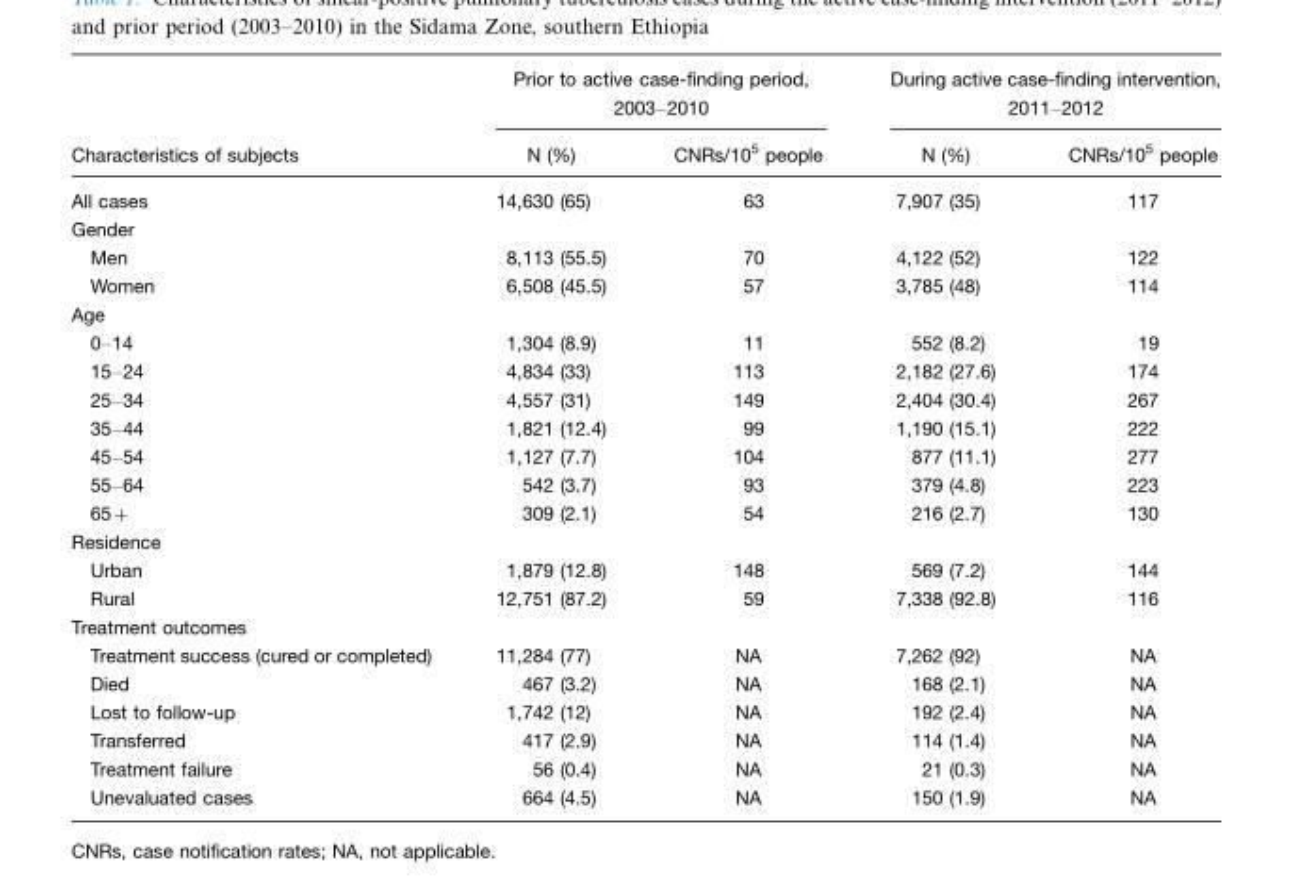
<table><thead><tr><td rowspan="2">Characteristics of subjects</td><td colspan="2">Prior to active case-finding period, 2003–2010</td><td colspan="2">During active case-finding intervention, 2011–2012</td></tr><tr><td>N (%)</td><td>CNRs/10<sup>5</sup> people</td><td>N (%)</td><td>CNRs/10<sup>5</sup> people</td></tr></thead><tbody><tr><td>All cases</td><td>14,630 (65)</td><td>63</td><td>7,907 (35)</td><td>117</td></tr><tr><td colspan="5">Gender</td></tr><tr><td>Men</td><td>8,113 (55.5)</td><td>70</td><td>4,122 (52)</td><td>122</td></tr><tr><td>Women</td><td>6,508 (45.5)</td><td>57</td><td>3,785 (48)</td><td>114</td></tr><tr><td colspan="5">Age</td></tr><tr><td>0–14</td><td>1,304 (8.9)</td><td>11</td><td>552 (8.2)</td><td>19</td></tr><tr><td>15–24</td><td>4,834 (33)</td><td>113</td><td>2,182 (27.6)</td><td>174</td></tr><tr><td>25–34</td><td>4,557 (31)</td><td>149</td><td>2,404 (30.4)</td><td>267</td></tr><tr><td>35–44</td><td>1,821 (12.4)</td><td>99</td><td>1,190 (15.1)</td><td>222</td></tr><tr><td>45–54</td><td>1,127 (7.7)</td><td>104</td><td>877 (11.1)</td><td>277</td></tr><tr><td>55–64</td><td>542 (3.7)</td><td>93</td><td>379 (4.8)</td><td>223</td></tr><tr><td>65+</td><td>309 (2.1)</td><td>54</td><td>216 (2.7)</td><td>130</td></tr><tr><td colspan="5">Residence</td></tr><tr><td>Urban</td><td>1,879 (12.8)</td><td>148</td><td>569 (7.2)</td><td>144</td></tr><tr><td>Rural</td><td>12,751 (87.2)</td><td>59</td><td>7,338 (92.8)</td><td>116</td></tr><tr><td colspan="5">Treatment outcomes</td></tr><tr><td>Treatment success (cured or completed)</td><td>11,284 (77)</td><td>NA</td><td>7,262 (92)</td><td>NA</td></tr><tr><td>Died</td><td>467 (3.2)</td><td>NA</td><td>168 (2.1)</td><td>NA</td></tr><tr><td>Lost to follow-up</td><td>1,742 (12)</td><td>NA</td><td>192 (2.4)</td><td>NA</td></tr><tr><td>Transferred</td><td>417 (2.9)</td><td>NA</td><td>114 (1.4)</td><td>NA</td></tr><tr><td>Treatment failure</td><td>56 (0.4)</td><td>NA</td><td>21 (0.3)</td><td>NA</td></tr><tr><td>Unevaluated cases</td><td>664 (4.5)</td><td>NA</td><td>150 (1.9)</td><td>NA</td></tr></tbody></table>